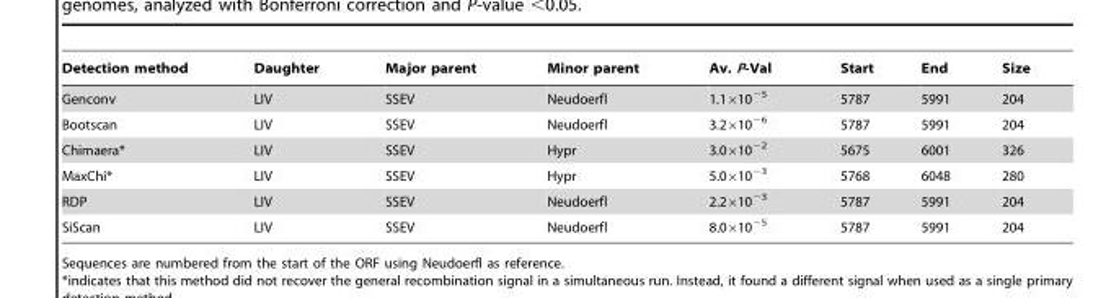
<table><thead><tr><td>Detection method</td><td>Daughter</td><td>Major parent</td><td>Minor parent</td><td>Av. P-Val</td><td>Start</td><td>End</td><td>Size</td></tr></thead><tbody><tr><td>Genconv</td><td>LIV</td><td>SSEV</td><td>Neudoerfl</td><td>1.1×10<sup>−5</sup></td><td>5787</td><td>5991</td><td>204</td></tr><tr><td>Bootscan</td><td>LIV</td><td>SSEV</td><td>Neudoerfl</td><td>3.2×10<sup>−6</sup></td><td>5787</td><td>5991</td><td>204</td></tr><tr><td>Chimaera*</td><td>LIV</td><td>SSEV</td><td>Hypr</td><td>3.0×10<sup>−2</sup></td><td>5675</td><td>6001</td><td>326</td></tr><tr><td>MaxChi*</td><td>LIV</td><td>SSEV</td><td>Hypr</td><td>5.0×10<sup>−3</sup></td><td>5768</td><td>6048</td><td>280</td></tr><tr><td>RDP</td><td>LIV</td><td>SSEV</td><td>Neudoerfl</td><td>2.2×10<sup>−3</sup></td><td>5787</td><td>5991</td><td>204</td></tr><tr><td>SiScan</td><td>LIV</td><td>SSEV</td><td>Neudoerfl</td><td>8.0×10<sup>−5</sup></td><td>5787</td><td>5991</td><td>204</td></tr></tbody></table>